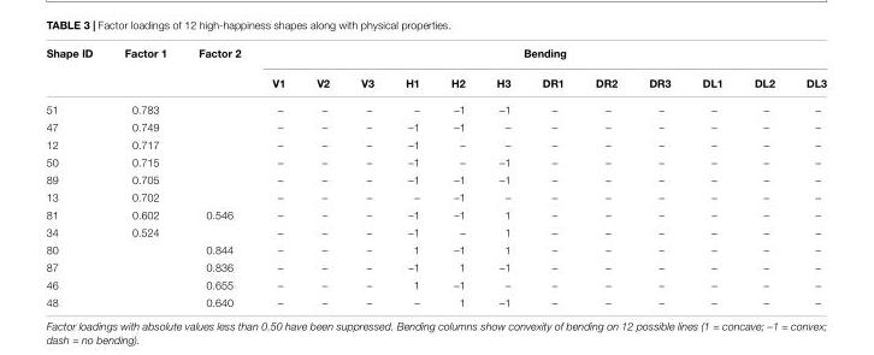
<table><thead><tr><td rowspan="2">Shape ID</td><td rowspan="2">Factor 1</td><td rowspan="2">Factor 2</td><td colspan="12">Bending</td></tr><tr><td>V1</td><td>V2</td><td>V3</td><td>H1</td><td>H2</td><td>H3</td><td>DR1</td><td>DR2</td><td>DR3</td><td>DL1</td><td>DL2</td><td>DL3</td></tr></thead><tbody><tr><td>51</td><td>0.783</td><td></td><td>–</td><td>–</td><td>–</td><td>–</td><td>–1</td><td>–1</td><td>–</td><td>–</td><td>–</td><td>–</td><td>–</td><td>–</td></tr><tr><td>47</td><td>0.749</td><td></td><td>–</td><td>–</td><td>–</td><td>–1</td><td>–1</td><td>–</td><td>–</td><td>–</td><td>–</td><td>–</td><td>–</td><td>–</td></tr><tr><td>12</td><td>0.717</td><td></td><td>–</td><td>–</td><td>–</td><td>–1</td><td>–</td><td>–</td><td>–</td><td>–</td><td>–</td><td>–</td><td>–</td><td>–</td></tr><tr><td>50</td><td>0.715</td><td></td><td>–</td><td>–</td><td>–</td><td>–1</td><td>–</td><td>–1</td><td>–</td><td>–</td><td>–</td><td>–</td><td>–</td><td>–</td></tr><tr><td>89</td><td>0.705</td><td></td><td>–</td><td>–</td><td>–</td><td>–1</td><td>–1</td><td>–1</td><td>–</td><td>–</td><td>–</td><td>–</td><td>–</td><td>–</td></tr><tr><td>13</td><td>0.702</td><td></td><td>–</td><td>–</td><td>–</td><td>–</td><td>–1</td><td>–</td><td>–</td><td>–</td><td>–</td><td>–</td><td>–</td><td>–</td></tr><tr><td>81</td><td>0.602</td><td>0.546</td><td>–</td><td>–</td><td>–</td><td>–1</td><td>–1</td><td>1</td><td>–</td><td>–</td><td>–</td><td>–</td><td>–</td><td>–</td></tr><tr><td>34</td><td>0.524</td><td></td><td>–</td><td>–</td><td>–</td><td>–1</td><td>–</td><td>1</td><td>–</td><td>–</td><td>–</td><td>–</td><td>–</td><td>–</td></tr><tr><td>80</td><td></td><td>0.844</td><td>–</td><td>–</td><td>–</td><td>1</td><td>–1</td><td>1</td><td>–</td><td>–</td><td>–</td><td>–</td><td>–</td><td>–</td></tr><tr><td>87</td><td></td><td>0.836</td><td>–</td><td>–</td><td>–</td><td>–1</td><td>1</td><td>–1</td><td>–</td><td>–</td><td>–</td><td>–</td><td>–</td><td>–</td></tr><tr><td>46</td><td></td><td>0.655</td><td>–</td><td>–</td><td>–</td><td>1</td><td>–1</td><td>–</td><td>–</td><td>–</td><td>–</td><td>–</td><td>–</td><td>–</td></tr><tr><td>48</td><td></td><td>0.640</td><td>–</td><td>–</td><td>–</td><td>–</td><td>1</td><td>–1</td><td>–</td><td>–</td><td>–</td><td>–</td><td>–</td><td>–</td></tr></tbody></table>